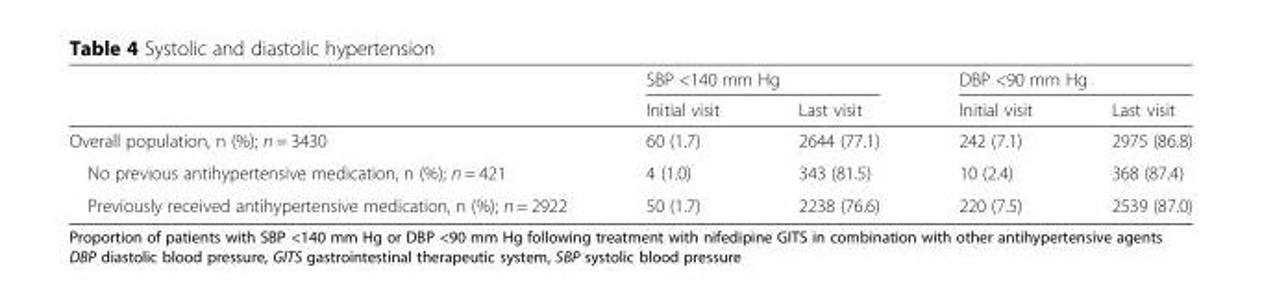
<table><thead><tr><td rowspan="2"></td><td colspan="2">SBP &lt;140 mm Hg</td><td colspan="2">DBP &lt;90 mm Hg</td></tr><tr><td>Initial visit</td><td>Last visit</td><td>Initial visit</td><td>Last visit</td></tr></thead><tbody><tr><td>Overall population, n (%); n = 3430</td><td>60 (1.7)</td><td>2644 (77.1)</td><td>242 (7.1)</td><td>2975 (86.8)</td></tr><tr><td>No previous antihypertensive medication, n (%); n = 421</td><td>4 (1.0)</td><td>343 (81.5)</td><td>10 (2.4)</td><td>368 (87.4)</td></tr><tr><td>Previously received antihypertensive medication, n (%); n = 2922</td><td>50 (1.7)</td><td>2238 (76.6)</td><td>220 (7.5)</td><td>2539 (87.0)</td></tr></tbody></table>